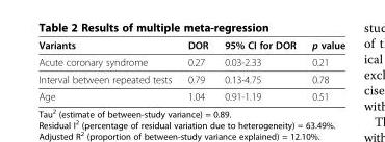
<table><thead><tr><td>Variants</td><td>DOR</td><td>95% CI for DOR</td><td>p value</td></tr></thead><tbody><tr><td>Acute coronary syndrome</td><td>0.27</td><td>0.03-2.33</td><td>0.21</td></tr><tr><td>Interval between repeated tests</td><td>0.79</td><td>0.13-4.75</td><td>0.78</td></tr><tr><td>Age</td><td>1.04</td><td>0.91-1.19</td><td>0.51</td></tr></tbody></table>